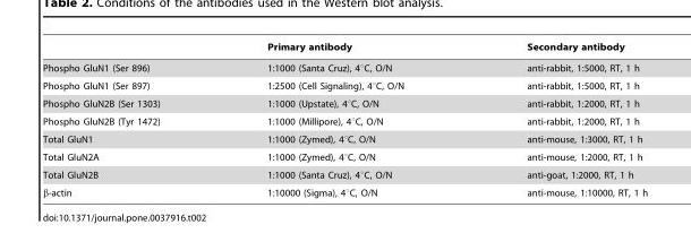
<table><thead><tr><td></td><td>Primary antibody</td><td>Secondary antibody</td></tr></thead><tbody><tr><td>Phospho GluN1 (Ser 896)</td><td>1:1000 (Santa Cruz), 4°C, O/N</td><td>anti-rabbit, 1:5000, RT, 1 h</td></tr><tr><td>Phospho GluN1 (Ser 897)</td><td>1:2500 (Cell Signaling), 4°C, O/N</td><td>anti-rabbit, 1:5000, RT, 1 h</td></tr><tr><td>Phospho GluN2B (Ser 1303)</td><td>1:1000 (Upstate), 4°C, O/N</td><td>anti-rabbit, 1:2000, RT, 1 h</td></tr><tr><td>Phospho GluN2B (Tyr 1472)</td><td>1:1000 (Millipore), 4°C, O/N</td><td>anti-rabbit, 1:2000, RT, 1 h</td></tr><tr><td>Total GluN1</td><td>1:1000 (Zymed), 4°C, O/N</td><td>anti-mouse, 1:3000, RT, 1 h</td></tr><tr><td>Total GluN2A</td><td>1:1000 (Zymed), 4°C, O/N</td><td>anti-mouse, 1:2000, RT, 1 h</td></tr><tr><td>Total GluN2B</td><td>1:1000 (Santa Cruz), 4°C, O/N</td><td>anti-goat, 1:2000, RT, 1 h</td></tr><tr><td>β-actin</td><td>1:10000 (Sigma), 4°C, O/N</td><td>anti-mouse, 1:10000, RT, 1 h</td></tr></tbody></table>